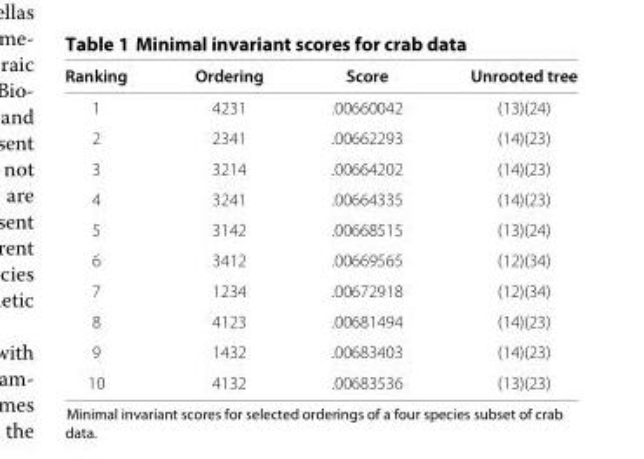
<table><thead><tr><td>Ranking</td><td>Ordering</td><td>Score</td><td>Unrooted tree</td></tr></thead><tbody><tr><td>1</td><td>4231</td><td>.00660042</td><td>(13)(24)</td></tr><tr><td>2</td><td>2341</td><td>.00662293</td><td>(14)(23)</td></tr><tr><td>3</td><td>3214</td><td>.00664202</td><td>(14)(23)</td></tr><tr><td>4</td><td>3241</td><td>.00664335</td><td>(14)(23)</td></tr><tr><td>5</td><td>3142</td><td>.00668515</td><td>(13)(24)</td></tr><tr><td>6</td><td>3412</td><td>.00669565</td><td>(12)(34)</td></tr><tr><td>7</td><td>1234</td><td>.00672918</td><td>(12)(34)</td></tr><tr><td>8</td><td>4123</td><td>.00681494</td><td>(14)(23)</td></tr><tr><td>9</td><td>1432</td><td>.00683403</td><td>(14)(23)</td></tr><tr><td>10</td><td>4132</td><td>.00683536</td><td>(13)(23)</td></tr></tbody></table>